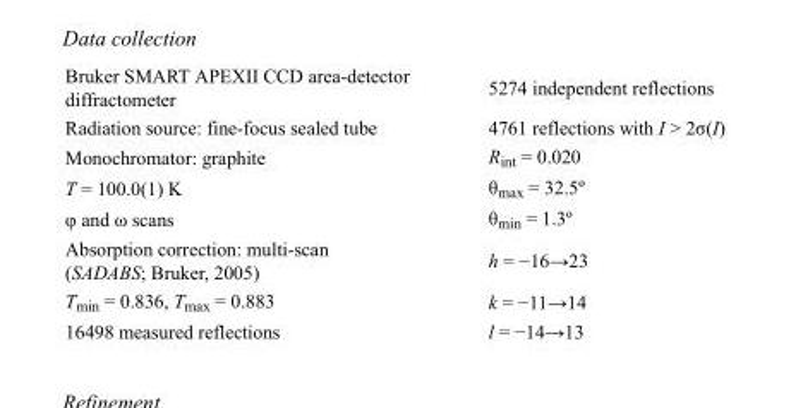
<table><tbody><tr><td>Bruker SMART APEXII CCD area-detector diffractometer</td><td>5274 independent reflections</td></tr><tr><td>Radiation source: fine-focus sealed tube</td><td>4761 reflections with I &gt; 2σ(I)</td></tr><tr><td>Monochromator: graphite</td><td>R<sub>int</sub> = 0.020</td></tr><tr><td>T = 100.0(1) K</td><td>θ<sub>max</sub> = 32.5º</td></tr><tr><td>φ and ω scans</td><td>θ<sub>min</sub> = 1.3º</td></tr><tr><td>Absorption correction: multi-scan (SADABS; Bruker, 2005)</td><td>h = −16→23</td></tr><tr><td>T<sub>min</sub> = 0.836, T<sub>max</sub> = 0.883</td><td>k = −11→14</td></tr><tr><td>16498 measured reflections</td><td>l = −14→13</td></tr></tbody></table>